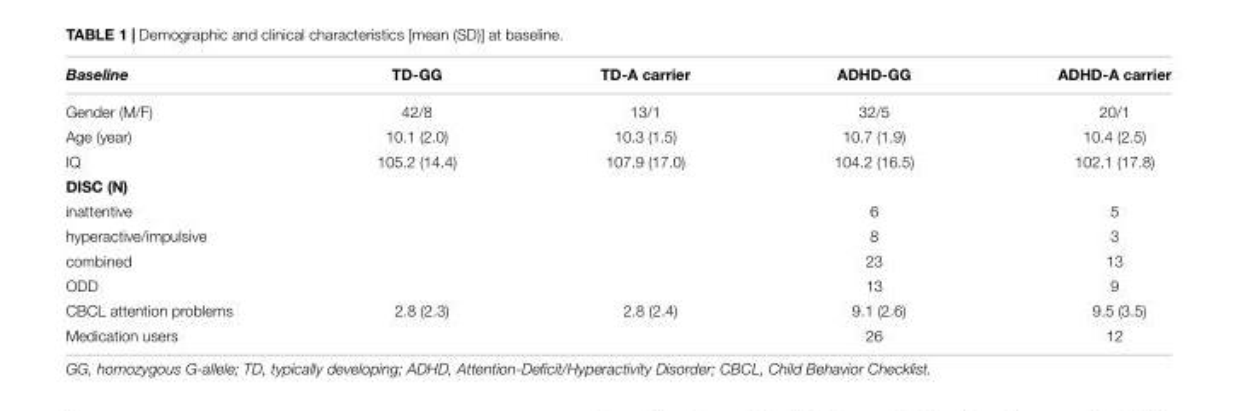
<table><thead><tr><td>Baseline</td><td>TD-GG</td><td>TD-A carrier</td><td>ADHD-GG</td><td>ADHD-A carrier</td></tr></thead><tbody><tr><td>Gender (M/F)</td><td>42/8</td><td>13/1</td><td>32/5</td><td>20/1</td></tr><tr><td>Age (year)</td><td>10.1 (2.0)</td><td>10.3 (1.5)</td><td>10.7 (1.9)</td><td>10.4 (2.5)</td></tr><tr><td>IQ</td><td>105.2 (14.4)</td><td>107.9 (17.0)</td><td>104.2 (16.5)</td><td>102.1 (17.8)</td></tr><tr><td colspan="5">DISC (N)</td></tr><tr><td>inattentive</td><td></td><td></td><td>6</td><td>5</td></tr><tr><td>hyperactive/impulsive</td><td></td><td></td><td>8</td><td>3</td></tr><tr><td>combined</td><td></td><td></td><td>23</td><td>13</td></tr><tr><td>ODD</td><td></td><td></td><td>13</td><td>9</td></tr><tr><td>CBCL attention problems</td><td>2.8 (2.3)</td><td>2.8 (2.4)</td><td>9.1 (2.6)</td><td>9.5 (3.5)</td></tr><tr><td>Medication users</td><td></td><td></td><td>26</td><td>12</td></tr></tbody></table>